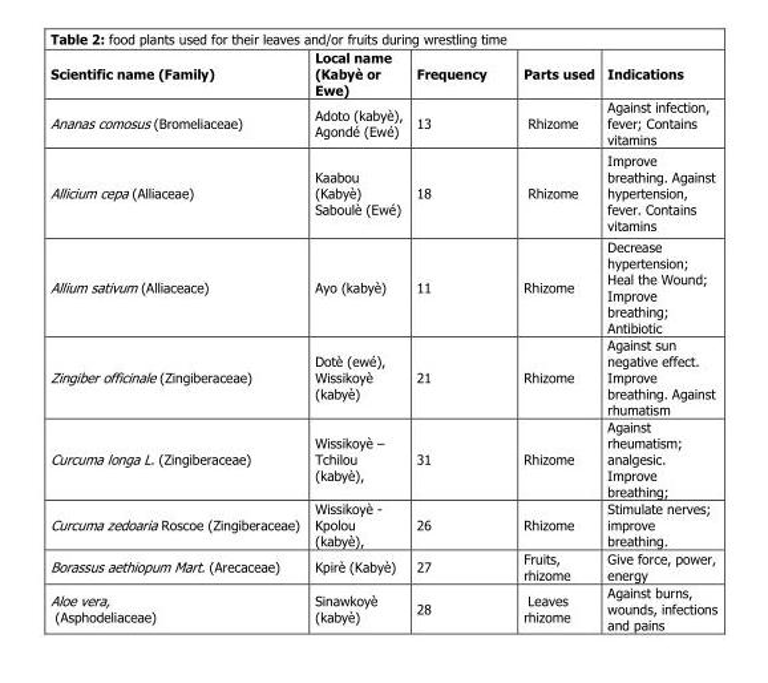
<table><thead><tr><td>Scientific name (Family)</td><td>Local name (Kabyè or Ewe)</td><td>Frequency</td><td>Parts used</td><td>Indications</td></tr></thead><tbody><tr><td>Ananas comosus (Bromeliaceae)</td><td>Adoto (kabyè), Agondé (Ewé)</td><td>13</td><td>Rhizome</td><td>Against infection, fever; Contains vitamins</td></tr><tr><td>Allicium cepa (Alliaceae)</td><td>Kaabou (Kabyè) Saboulè (Ewé)</td><td>18</td><td>Rhizome</td><td>Improve breathing. Against hypertension, fever. Contains vitamins</td></tr><tr><td>Allium sativum (Alliaceace)</td><td>Ayo (kabyè)</td><td>11</td><td>Rhizome</td><td>Decrease hypertension; Heal the Wound; Improve breathing; Antibiotic</td></tr><tr><td>Zingiber officinale (Zingiberaceae)</td><td>Dotè (ewé), Wissikoyè (kabyè)</td><td>21</td><td>Rhizome</td><td>Against sun negative effect. Improve breathing. Against rhumatism</td></tr><tr><td>Curcuma longa L. (Zingiberaceae)</td><td>Wissikoyè – Tchilou (kabyè),</td><td>31</td><td>Rhizome</td><td>Against rheumatism; analgesic. Improve breathing;</td></tr><tr><td>Curcuma zedoaria Roscoe (Zingiberaceae)</td><td>Wissikoyè - Kpolou (kabyè),</td><td>26</td><td>Rhizome</td><td>Stimulate nerves; improve breathing.</td></tr><tr><td>Borassus aethiopum Mart. (Arecaceae)</td><td>Kpirè (Kabyè)</td><td>27</td><td>Fruits, rhizome</td><td>Give force, power, energy</td></tr><tr><td>Aloe vera, (Asphodeliaceae)</td><td>Sinawkoyè (kabyè)</td><td>28</td><td>Leaves rhizome</td><td>Against burns, wounds, infections and pains</td></tr></tbody></table>